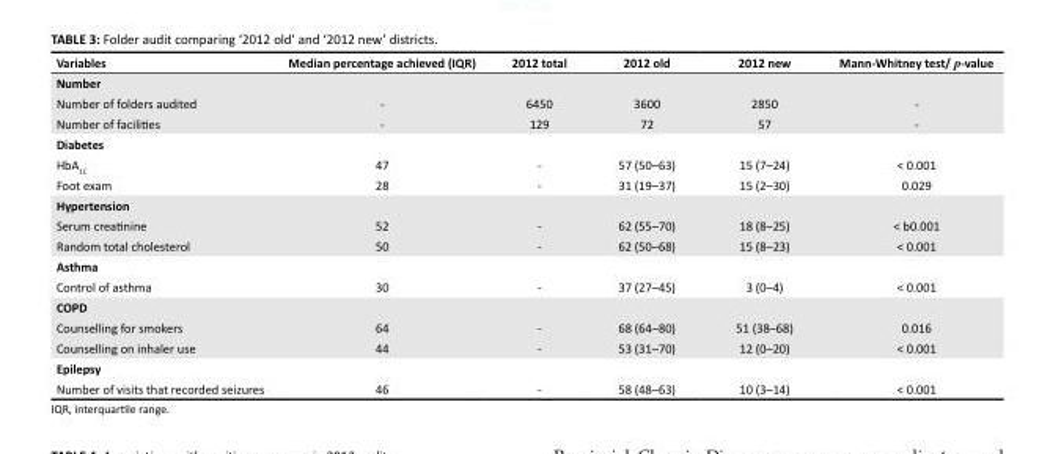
<table><thead><tr><td>Variables</td><td>Median percentage achieved (IQR)</td><td>2012 total</td><td>2012 old</td><td>2012 new</td><td>Mann-Whitney test/ p-value</td></tr></thead><tbody><tr><td colspan="6">Number</td></tr><tr><td>Number of folders audited</td><td>-</td><td>6450</td><td>3600</td><td>2850</td><td>-</td></tr><tr><td>Number of facilities</td><td>-</td><td>129</td><td>72</td><td>57</td><td>-</td></tr><tr><td colspan="6">Diabetes</td></tr><tr><td>HbA<sub>1C</sub></td><td>47</td><td>-</td><td>57 (50–63)</td><td>15 (7–24)</td><td>&lt; 0.001</td></tr><tr><td>Foot exam</td><td>28</td><td>-</td><td>31 (19–37)</td><td>15 (2–30)</td><td>0.029</td></tr><tr><td colspan="6">Hypertension</td></tr><tr><td>Serum creatinine</td><td>52</td><td>-</td><td>62 (55–70)</td><td>18 (8–25)</td><td>&lt; b0.001</td></tr><tr><td>Random total cholesterol</td><td>50</td><td>-</td><td>62 (50–68)</td><td>15 (8–23)</td><td>&lt; 0.001</td></tr><tr><td colspan="6">Asthma</td></tr><tr><td>Control of asthma</td><td>30</td><td>-</td><td>37 (27–45)</td><td>3 (0–4)</td><td>&lt; 0.001</td></tr><tr><td colspan="6">COPD</td></tr><tr><td>Counselling for smokers</td><td>64</td><td>-</td><td>68 (64–80)</td><td>51 (38–68)</td><td>0.016</td></tr><tr><td>Counselling on inhaler use</td><td>44</td><td>-</td><td>53 (31–70)</td><td>12 (0–20)</td><td>&lt; 0.001</td></tr><tr><td colspan="6">Epilepsy</td></tr><tr><td>Number of visits that recorded seizures</td><td>46</td><td>-</td><td>58 (48–63)</td><td>10 (3–14)</td><td>&lt; 0.001</td></tr></tbody></table>